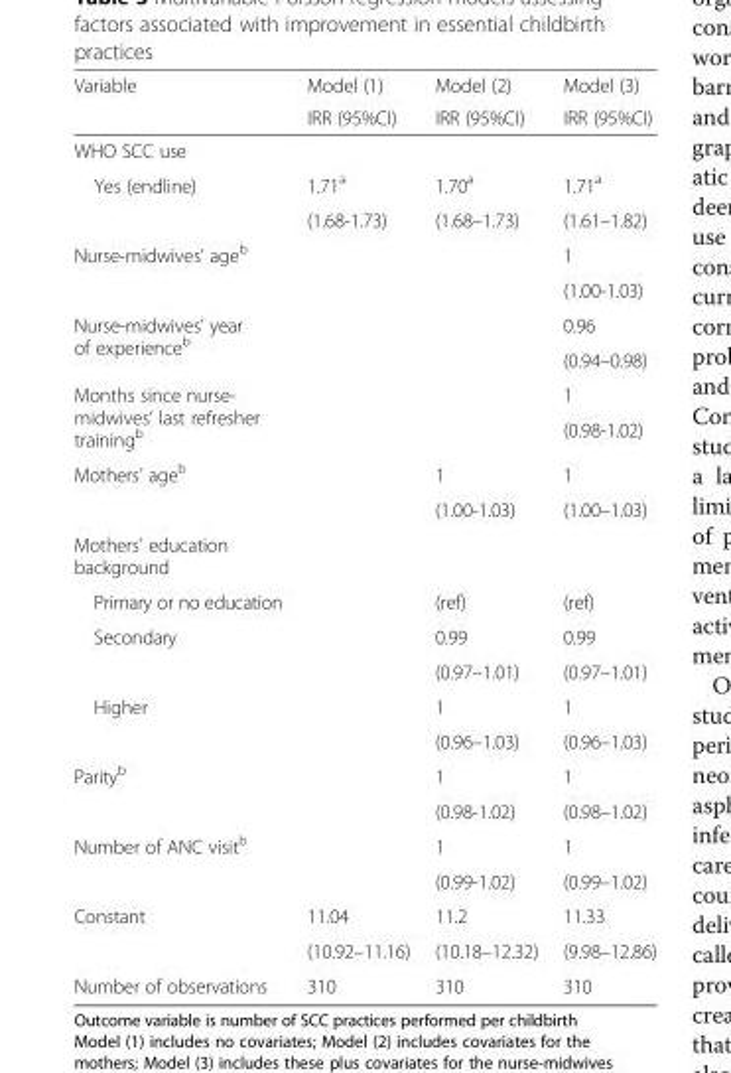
<table><thead><tr><td rowspan="2">Variable</td><td rowspan="2">Model (1) IRR (95%CI)</td><td rowspan="2">Model (2) IRR (95%CI)</td><td rowspan="2">Model (3) IRR (95%CI)</td></tr><tr></tr></thead><tbody><tr><td colspan="4">WHO SCC use</td></tr><tr><td rowspan="2">Yes (endline)</td><td>1.71<sup>a</sup></td><td>1.70<sup>a</sup></td><td>1.71<sup>a</sup></td></tr><tr><td>(1.68-1.73)</td><td>(1.68–1.73)</td><td>(1.61–1.82)</td></tr><tr><td rowspan="2">Nurse-midwives’ age<sup>b</sup></td><td rowspan="2"></td><td rowspan="2"></td><td>1</td></tr><tr><td>(1.00-1.03)</td></tr><tr><td rowspan="2">Nurse-midwives’ year of experience<sup>b</sup></td><td rowspan="2"></td><td rowspan="2"></td><td>0.96</td></tr><tr><td>(0.94–0.98)</td></tr><tr><td rowspan="2">Months since nurse- midwives’ last refresher training<sup>b</sup></td><td rowspan="2"></td><td rowspan="2"></td><td>1</td></tr><tr><td>(0.98-1.02)</td></tr><tr><td rowspan="2">Mothers’ age<sup>b</sup></td><td rowspan="2"></td><td>1</td><td>1</td></tr><tr><td>(1.00-1.03)</td><td>(1.00–1.03)</td></tr><tr><td colspan="4">Mothers’ education background</td></tr><tr><td>Primary or no education</td><td></td><td>(ref)</td><td>(ref)</td></tr><tr><td rowspan="2">Secondary</td><td rowspan="2"></td><td>0.99</td><td>0.99</td></tr><tr><td>(0.97–1.01)</td><td>(0.97–1.01)</td></tr><tr><td rowspan="2">Higher</td><td rowspan="2"></td><td>1</td><td>1</td></tr><tr><td>(0.96–1.03)</td><td>(0.96–1.03)</td></tr><tr><td rowspan="2">Parity<sup>b</sup></td><td rowspan="2"></td><td>1</td><td>1</td></tr><tr><td>(0.98-1.02)</td><td>(0.98–1.02)</td></tr><tr><td rowspan="2">Number of ANC visit<sup>b</sup></td><td rowspan="2"></td><td>1</td><td>1</td></tr><tr><td>(0.99-1.02)</td><td>(0.99–1.02)</td></tr><tr><td rowspan="2">Constant</td><td>11.04</td><td>11.2</td><td>11.33</td></tr><tr><td>(10.92–11.16)</td><td>(10.18–12.32)</td><td>(9.98–12.86)</td></tr><tr><td>Number of observations</td><td>310</td><td>310</td><td>310</td></tr></tbody></table>